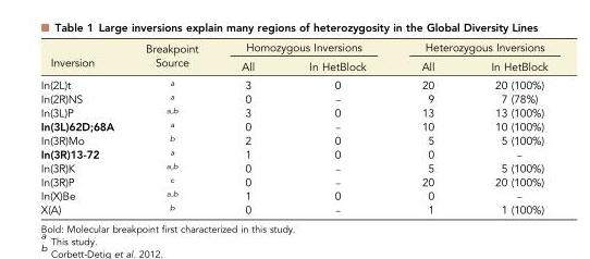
<table><thead><tr><td rowspan="2">Inversion</td><td rowspan="2">Breakpoint Source</td><td colspan="2">Homozygous Inversions</td><td colspan="2">Heterozygous Inversions</td></tr><tr><td>All</td><td>In HetBlock</td><td>All</td><td>In HetBlock</td></tr></thead><tbody><tr><td>In(2L)t</td><td><sup>a</sup></td><td>3</td><td>0</td><td>20</td><td>20 (100%)</td></tr><tr><td>In(2R)NS</td><td><sup>a</sup></td><td>0</td><td>–</td><td>9</td><td>7 (78%)</td></tr><tr><td>In(3L)P</td><td><sup>a,b</sup></td><td>3</td><td>0</td><td>13</td><td>13 (100%)</td></tr><tr><td>In(3L)62D;68A</td><td><sup>a</sup></td><td>0</td><td>–</td><td>10</td><td>10 (100%)</td></tr><tr><td>In(3R)Mo</td><td><sup>b</sup></td><td>2</td><td>0</td><td>5</td><td>5 (100%)</td></tr><tr><td>In(3R)13-72</td><td><sup>a</sup></td><td>1</td><td>0</td><td>0</td><td>–</td></tr><tr><td>In(3R)K</td><td><sup>a,b</sup></td><td>0</td><td>–</td><td>5</td><td>5 (100%)</td></tr><tr><td>In(3R)P</td><td><sup>c</sup></td><td>0</td><td>–</td><td>20</td><td>20 (100%)</td></tr><tr><td>In(X)Be</td><td><sup>a,b</sup></td><td>1</td><td>0</td><td>0</td><td>–</td></tr><tr><td>X(A)</td><td><sup>b</sup></td><td>0</td><td>–</td><td>1</td><td>1 (100%)</td></tr></tbody></table>